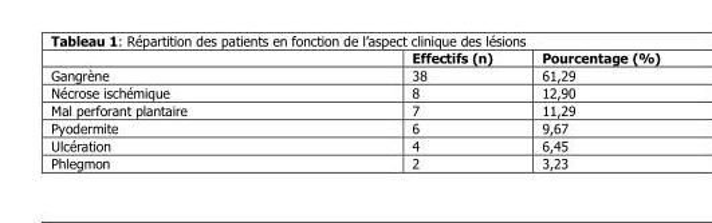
<table><thead><tr><td></td><td>Effectifs (n)</td><td>Pourcentage (%)</td></tr></thead><tbody><tr><td>Gangrène</td><td>38</td><td>61,29</td></tr><tr><td>Nécrose ischémique</td><td>8</td><td>12,90</td></tr><tr><td>Mal perforant plantaire</td><td>7</td><td>11,29</td></tr><tr><td>Pyodermite</td><td>6</td><td>9,67</td></tr><tr><td>Ulcération</td><td>4</td><td>6,45</td></tr><tr><td>Phlegmon</td><td>2</td><td>3,23</td></tr></tbody></table>